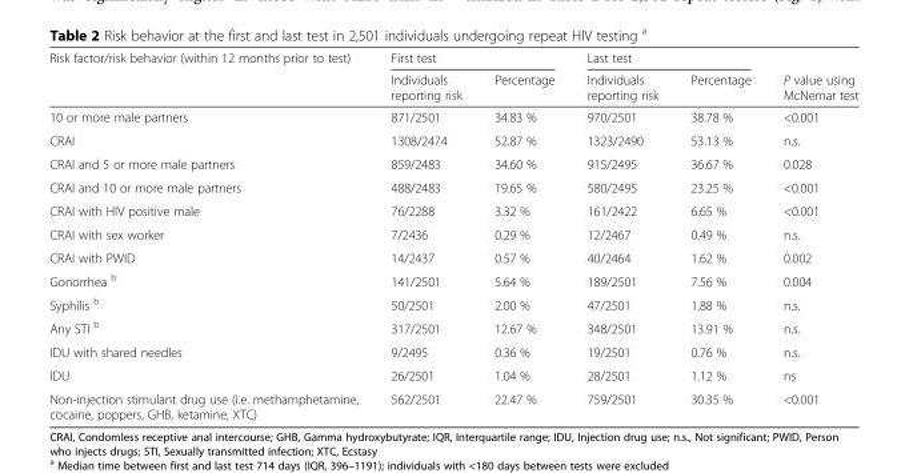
<table><thead><tr><td rowspan="2">Risk factor/risk behavior (within 12 months prior to test)</td><td colspan="2">First test</td><td colspan="2">Last test</td><td rowspan="2">P value using McNemar test</td></tr><tr><td>Individuals reporting risk</td><td>Percentage</td><td>Individuals reporting risk</td><td>Percentage</td></tr></thead><tbody><tr><td>10 or more male partners</td><td>871/2501</td><td>34.83 %</td><td>970/2501</td><td>38.78 %</td><td>&lt;0.001</td></tr><tr><td>CRAI</td><td>1308/2474</td><td>52.87 %</td><td>1323/2490</td><td>53.13 %</td><td>n.s.</td></tr><tr><td>CRAI and 5 or more male partners</td><td>859/2483</td><td>34.60 %</td><td>915/2495</td><td>36.67 %</td><td>0.028</td></tr><tr><td>CRAI and 10 or more male partners</td><td>488/2483</td><td>19.65 %</td><td>580/2495</td><td>23.25 %</td><td>&lt;0.001</td></tr><tr><td>CRAI with HIV positive male</td><td>76/2288</td><td>3.32 %</td><td>161/2422</td><td>6.65 %</td><td>&lt;0.001</td></tr><tr><td>CRAI with sex worker</td><td>7/2436</td><td>0.29 %</td><td>12/2467</td><td>0.49 %</td><td>n.s.</td></tr><tr><td>CRAI with PWID</td><td>14/2437</td><td>0.57 %</td><td>40/2464</td><td>1.62 %</td><td>0.002</td></tr><tr><td>Gonorrhea <sup>b</sup></td><td>141/2501</td><td>5.64 %</td><td>189/2501</td><td>7.56 %</td><td>0.004</td></tr><tr><td>Syphilis <sup>b</sup></td><td>50/2501</td><td>2.00 %</td><td>47/2501</td><td>1.88 %</td><td>n.s.</td></tr><tr><td>Any STI <sup>b</sup></td><td>317/2501</td><td>12.67 %</td><td>348/2501</td><td>13.91 %</td><td>n.s.</td></tr><tr><td>IDU with shared needles</td><td>9/2495</td><td>0.36 %</td><td>19/2501</td><td>0.76 %</td><td>n.s.</td></tr><tr><td>IDU</td><td>26/2501</td><td>1.04 %</td><td>28/2501</td><td>1.12 %</td><td>ns</td></tr><tr><td>Non-injection stimulant drug use (i.e. methamphetamine, cocaine, poppers, GHB, ketamine, XTC)</td><td>562/2501</td><td>22.47 %</td><td>759/2501</td><td>30.35 %</td><td>&lt;0.001</td></tr></tbody></table>